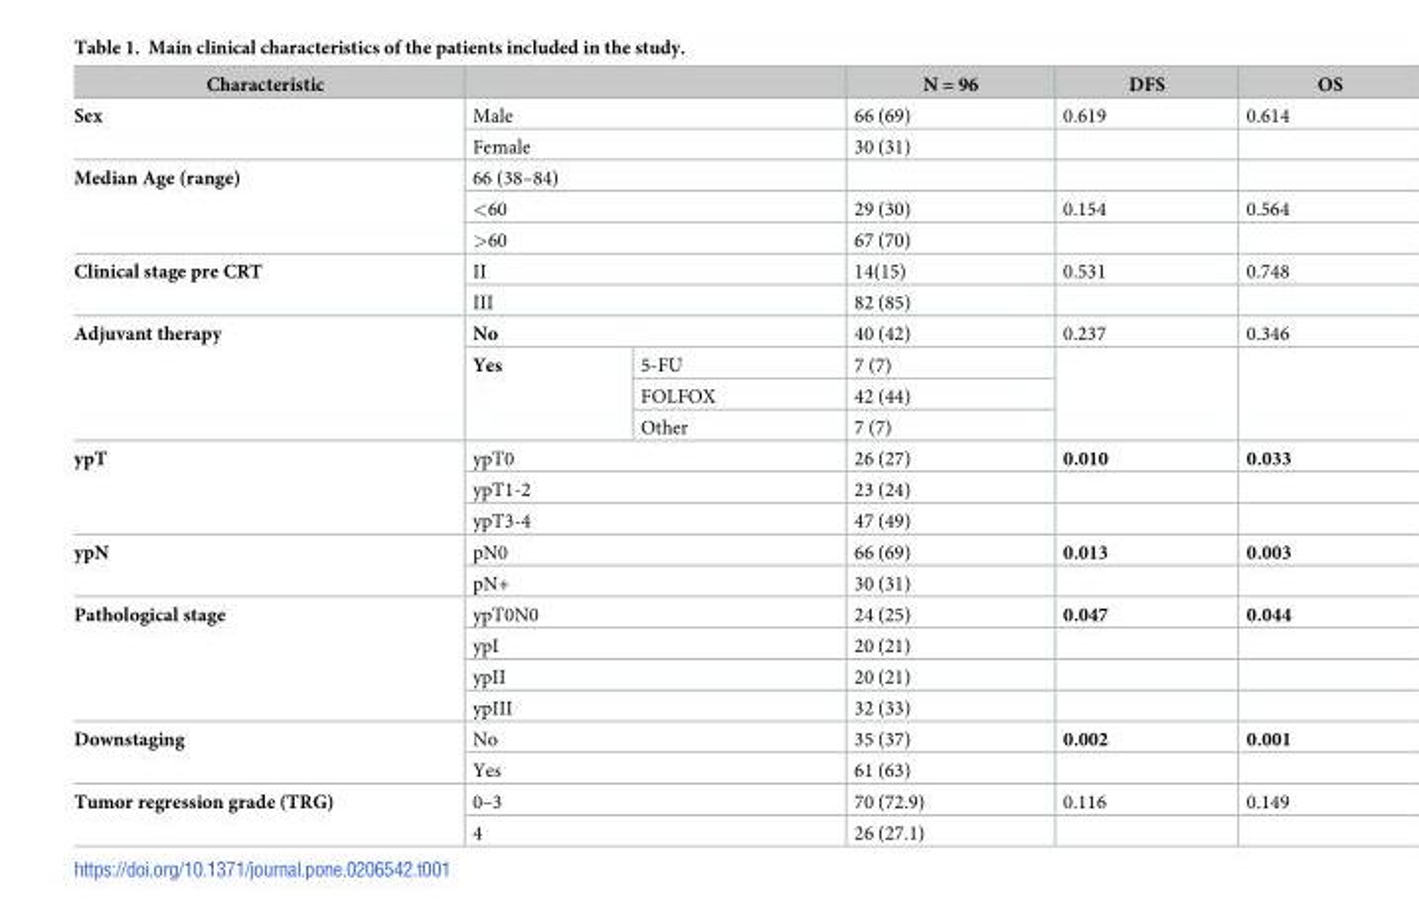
<table><thead><tr><td>Characteristic</td><td></td><td></td><td>N = 96</td><td>DFS</td><td>OS</td></tr></thead><tbody><tr><td rowspan="2">Sex</td><td colspan="2">Male</td><td>66 (69)</td><td>0.619</td><td>0.614</td></tr><tr><td colspan="2">Female</td><td>30 (31)</td><td></td><td></td></tr><tr><td rowspan="3">Median Age (range)</td><td colspan="2">66 (38–84)</td><td></td><td></td><td></td></tr><tr><td colspan="2">&lt;60</td><td>29 (30)</td><td>0.154</td><td>0.564</td></tr><tr><td colspan="2">&gt;60</td><td>67 (70)</td><td></td><td></td></tr><tr><td rowspan="2">Clinical stage pre CRT</td><td colspan="2">II</td><td>14(15)</td><td>0.531</td><td>0.748</td></tr><tr><td colspan="2">III</td><td>82 (85)</td><td></td><td></td></tr><tr><td rowspan="4">Adjuvant therapy</td><td colspan="2">No</td><td>40 (42)</td><td>0.237</td><td>0.346</td></tr><tr><td rowspan="3">Yes</td><td>5-FU</td><td>7 (7)</td><td rowspan="3"></td><td rowspan="3"></td></tr><tr><td>FOLFOX</td><td>42 (44)</td></tr><tr><td>Other</td><td>7 (7)</td></tr><tr><td rowspan="3">ypT</td><td colspan="2">ypT0</td><td>26 (27)</td><td>0.010</td><td>0.033</td></tr><tr><td colspan="2">ypT1-2</td><td>23 (24)</td><td></td><td></td></tr><tr><td colspan="2">ypT3-4</td><td>47 (49)</td><td></td><td></td></tr><tr><td rowspan="2">ypN</td><td colspan="2">pN0</td><td>66 (69)</td><td>0.013</td><td>0.003</td></tr><tr><td colspan="2">pN+</td><td>30 (31)</td><td></td><td></td></tr><tr><td rowspan="4">Pathological stage</td><td colspan="2">ypT0N0</td><td>24 (25)</td><td>0.047</td><td>0.044</td></tr><tr><td colspan="2">ypI</td><td>20 (21)</td><td></td><td></td></tr><tr><td colspan="2">ypII</td><td>20 (21)</td><td></td><td></td></tr><tr><td colspan="2">ypIII</td><td>32 (33)</td><td></td><td></td></tr><tr><td rowspan="2">Downstaging</td><td colspan="2">No</td><td>35 (37)</td><td>0.002</td><td>0.001</td></tr><tr><td colspan="2">Yes</td><td>61 (63)</td><td></td><td></td></tr><tr><td rowspan="2">Tumor regression grade (TRG)</td><td colspan="2">0–3</td><td>70 (72.9)</td><td>0.116</td><td>0.149</td></tr><tr><td colspan="2">4</td><td>26 (27.1)</td><td></td><td></td></tr></tbody></table>